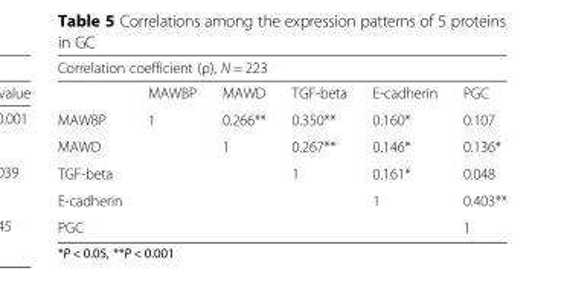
<table><thead><tr><td colspan="6">Correlation coefficient (ρ), N = 223</td></tr><tr><td></td><td>MAWBP</td><td>MAWD</td><td>TGF-beta</td><td>E-cadherin</td><td>PGC</td></tr></thead><tbody><tr><td>MAWBP</td><td>1</td><td>0.266**</td><td>0.350**</td><td>0.160*</td><td>0.107</td></tr><tr><td>MAWD</td><td></td><td>1</td><td>0.267**</td><td>0.146*</td><td>0.136*</td></tr><tr><td>TGF-beta</td><td></td><td></td><td>1</td><td>0.161*</td><td>0.048</td></tr><tr><td>E-cadherin</td><td></td><td></td><td></td><td>1</td><td>0.403**</td></tr><tr><td>PGC</td><td></td><td></td><td></td><td></td><td>1</td></tr></tbody></table>